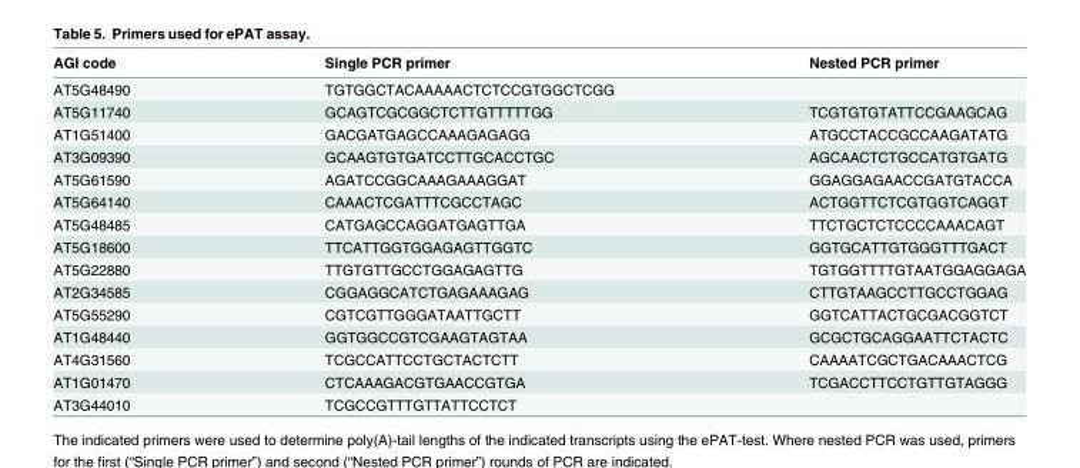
<table><thead><tr><td>AGI code</td><td>Single PCR primer</td><td>Nested PCR primer</td></tr></thead><tbody><tr><td>AT5G48490</td><td>TGTGGCTACAAAAACTCTCCGTGGCTCGG</td><td></td></tr><tr><td>AT5G11740</td><td>GCAGTCGCGGCTCTTGTTTTTGG</td><td>TCGTGTGTATTCCGAAGCAG</td></tr><tr><td>AT1G51400</td><td>GACGATGAGCCAAAGAGAGG</td><td>ATGCCTACCGCCAAGATATG</td></tr><tr><td>AT3G09390</td><td>GCAAGTGTGATCCTTGCACCTGC</td><td>AGCAACTCTGCCATGTGATG</td></tr><tr><td>AT5G61590</td><td>AGATCCGGCAAAGAAAGGAT</td><td>GGAGGAGAACCGATGTACCA</td></tr><tr><td>AT5G64140</td><td>CAAACTCGATTTCGCCTAGC</td><td>ACTGGTTCTCGTGGTCAGGT</td></tr><tr><td>AT5G48485</td><td>CATGAGCCAGGATGAGTTGA</td><td>TTCTGCTCTCCCCAAACAGT</td></tr><tr><td>AT5G18600</td><td>TTCATTGGTGGAGAGTTGGTC</td><td>GGTGCATTGTGGGTTTGACT</td></tr><tr><td>AT5G22880</td><td>TTGTGTTGCCTGGAGAGTTG</td><td>TGTGGTTTTGTAATGGAGGAGA</td></tr><tr><td>AT2G34585</td><td>CGGAGGCATCTGAGAAAGAG</td><td>CTTGTAAGCCTTGCCTGGAG</td></tr><tr><td>AT5G55290</td><td>CGTCGTTGGGATAATTGCTT</td><td>GGTCATTACTGCGACGGTCT</td></tr><tr><td>AT1G48440</td><td>GGTGGCCGTCGAAGTAGTAA</td><td>GCGCTGCAGGAATTCTACTC</td></tr><tr><td>AT4G31560</td><td>TCGCCATTCCTGCTACTCTT</td><td>CAAAATCGCTGACAAACTCG</td></tr><tr><td>AT1G01470</td><td>CTCAAAGACGTGAACCGTGA</td><td>TCGACCTTCCTGTTGTAGGG</td></tr><tr><td>AT3G44010</td><td>TCGCCGTTTGTTATTCCTCT</td><td></td></tr></tbody></table>